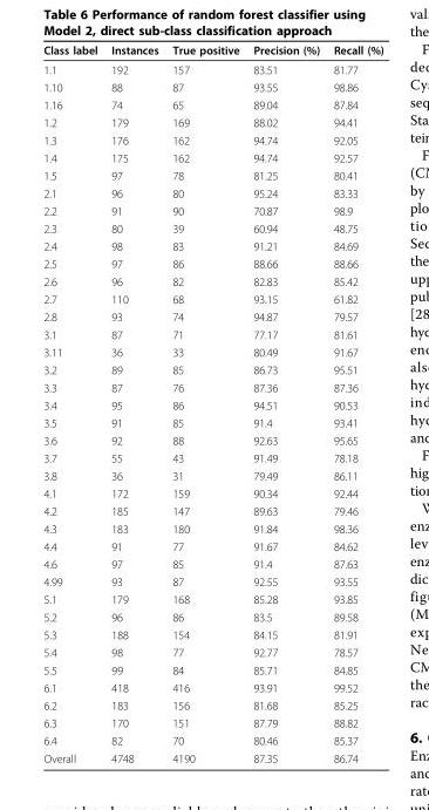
<table><thead><tr><td>Class label</td><td>Instances</td><td>True positive</td><td>Precision (%)</td><td>Recall (%)</td></tr></thead><tbody><tr><td>1.1</td><td>192</td><td>157</td><td>83.51</td><td>81.77</td></tr><tr><td>1.10</td><td>88</td><td>87</td><td>93.55</td><td>98.86</td></tr><tr><td>1.16</td><td>74</td><td>65</td><td>89.04</td><td>87.84</td></tr><tr><td>1.2</td><td>179</td><td>169</td><td>88.02</td><td>94.41</td></tr><tr><td>1.3</td><td>176</td><td>162</td><td>94.74</td><td>92.05</td></tr><tr><td>1.4</td><td>175</td><td>162</td><td>94.74</td><td>92.57</td></tr><tr><td>1.5</td><td>97</td><td>78</td><td>81.25</td><td>80.41</td></tr><tr><td>2.1</td><td>96</td><td>80</td><td>95.24</td><td>83.33</td></tr><tr><td>2.2</td><td>91</td><td>90</td><td>70.87</td><td>98.9</td></tr><tr><td>2.3</td><td>80</td><td>39</td><td>60.94</td><td>48.75</td></tr><tr><td>2.4</td><td>98</td><td>83</td><td>91.21</td><td>84.69</td></tr><tr><td>2.5</td><td>97</td><td>86</td><td>88.66</td><td>88.66</td></tr><tr><td>2.6</td><td>96</td><td>82</td><td>82.83</td><td>85.42</td></tr><tr><td>2.7</td><td>110</td><td>68</td><td>93.15</td><td>61.82</td></tr><tr><td>2.8</td><td>93</td><td>74</td><td>94.87</td><td>79.57</td></tr><tr><td>3.1</td><td>87</td><td>71</td><td>77.17</td><td>81.61</td></tr><tr><td>3.11</td><td>36</td><td>33</td><td>80.49</td><td>91.67</td></tr><tr><td>3.2</td><td>89</td><td>85</td><td>86.73</td><td>95.51</td></tr><tr><td>3.3</td><td>87</td><td>76</td><td>87.36</td><td>87.36</td></tr><tr><td>3.4</td><td>95</td><td>86</td><td>94.51</td><td>90.53</td></tr><tr><td>3.5</td><td>91</td><td>85</td><td>91.4</td><td>93.41</td></tr><tr><td>3.6</td><td>92</td><td>88</td><td>92.63</td><td>95.65</td></tr><tr><td>3.7</td><td>55</td><td>43</td><td>91.49</td><td>78.18</td></tr><tr><td>3.8</td><td>36</td><td>31</td><td>79.49</td><td>86.11</td></tr><tr><td>4.1</td><td>172</td><td>159</td><td>90.34</td><td>92.44</td></tr><tr><td>4.2</td><td>185</td><td>147</td><td>89.63</td><td>79.46</td></tr><tr><td>4.3</td><td>183</td><td>180</td><td>91.84</td><td>98.36</td></tr><tr><td>4.4</td><td>91</td><td>77</td><td>91.67</td><td>84.62</td></tr><tr><td>4.6</td><td>97</td><td>85</td><td>91.4</td><td>87.63</td></tr><tr><td>4.99</td><td>93</td><td>87</td><td>92.55</td><td>93.55</td></tr><tr><td>5.1</td><td>179</td><td>168</td><td>85.28</td><td>93.85</td></tr><tr><td>5.2</td><td>96</td><td>86</td><td>83.5</td><td>89.58</td></tr><tr><td>5.3</td><td>188</td><td>154</td><td>84.15</td><td>81.91</td></tr><tr><td>5.4</td><td>98</td><td>77</td><td>92.77</td><td>78.57</td></tr><tr><td>5.5</td><td>99</td><td>84</td><td>85.71</td><td>84.85</td></tr><tr><td>6.1</td><td>418</td><td>416</td><td>93.91</td><td>99.52</td></tr><tr><td>6.2</td><td>183</td><td>156</td><td>81.68</td><td>85.25</td></tr><tr><td>6.3</td><td>170</td><td>151</td><td>87.79</td><td>88.82</td></tr><tr><td>6.4</td><td>82</td><td>70</td><td>80.46</td><td>85.37</td></tr><tr><td>Overall</td><td>4748</td><td>4190</td><td>87.35</td><td>86.74</td></tr></tbody></table>